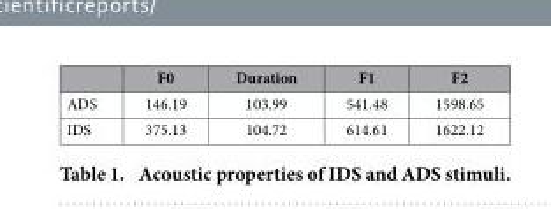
<table><thead><tr><td></td><td>F0</td><td>Duration</td><td>F1</td><td>F2</td></tr></thead><tbody><tr><td>ADS</td><td>146.19</td><td>103.99</td><td>541.48</td><td>1598.65</td></tr><tr><td>IDS</td><td>375.13</td><td>104.72</td><td>614.61</td><td>1622.12</td></tr></tbody></table>